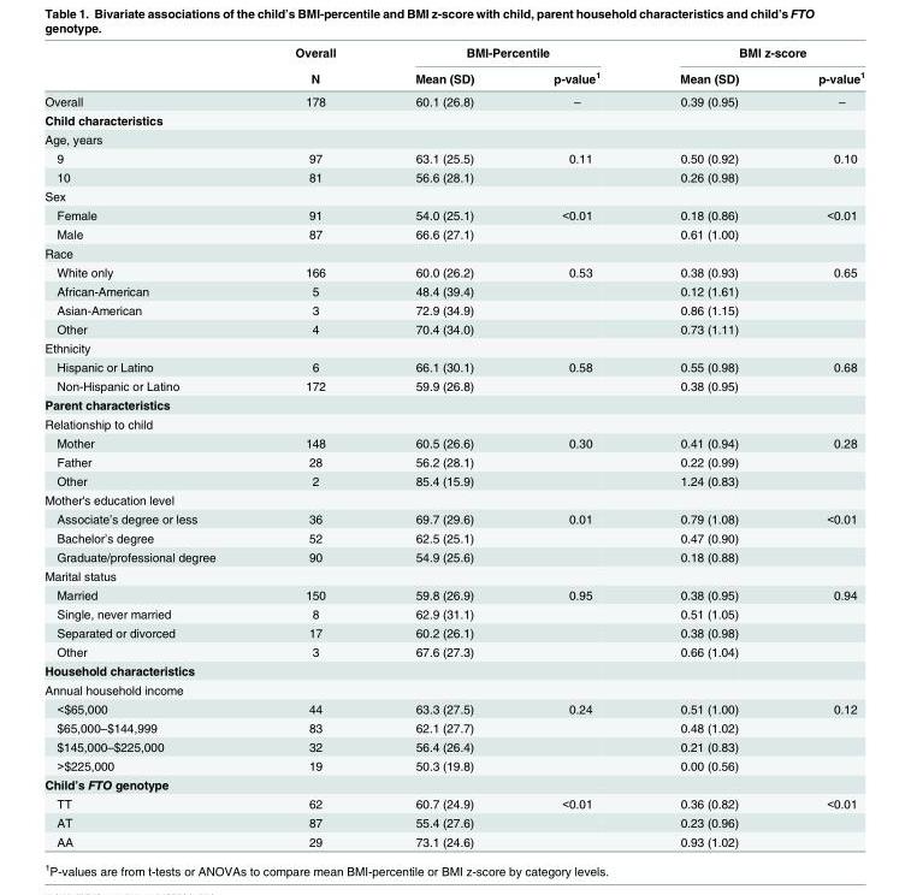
<table><thead><tr><td rowspan="2"></td><td rowspan="2">Overall N</td><td colspan="2">BMI-Percentile</td><td colspan="2">BMI z-score</td></tr><tr><td>Mean (SD)</td><td>p-value<sup>1</sup></td><td>Mean (SD)</td><td>p-value<sup>1</sup></td></tr></thead><tbody><tr><td>Overall</td><td>178</td><td>60.1 (26.8)</td><td>–</td><td>0.39 (0.95)</td><td>–</td></tr><tr><td colspan="6">Child characteristics</td></tr><tr><td colspan="6">Age, years</td></tr><tr><td>9</td><td>97</td><td>63.1 (25.5)</td><td>0.11</td><td>0.50 (0.92)</td><td>0.10</td></tr><tr><td>10</td><td>81</td><td>56.6 (28.1)</td><td></td><td>0.26 (0.98)</td><td></td></tr><tr><td colspan="6">Sex</td></tr><tr><td>Female</td><td>91</td><td>54.0 (25.1)</td><td>&lt;0.01</td><td>0.18 (0.86)</td><td>&lt;0.01</td></tr><tr><td>Male</td><td>87</td><td>66.6 (27.1)</td><td></td><td>0.61 (1.00)</td><td></td></tr><tr><td colspan="6">Race</td></tr><tr><td>White only</td><td>166</td><td>60.0 (26.2)</td><td>0.53</td><td>0.38 (0.93)</td><td>0.65</td></tr><tr><td>African-American</td><td>5</td><td>48.4 (39.4)</td><td></td><td>0.12 (1.61)</td><td></td></tr><tr><td>Asian-American</td><td>3</td><td>72.9 (34.9)</td><td></td><td>0.86 (1.15)</td><td></td></tr><tr><td>Other</td><td>4</td><td>70.4 (34.0)</td><td></td><td>0.73 (1.11)</td><td></td></tr><tr><td colspan="6">Ethnicity</td></tr><tr><td>Hispanic or Latino</td><td>6</td><td>66.1 (30.1)</td><td>0.58</td><td>0.55 (0.98)</td><td>0.68</td></tr><tr><td>Non-Hispanic or Latino</td><td>172</td><td>59.9 (26.8)</td><td></td><td>0.38 (0.95)</td><td></td></tr><tr><td colspan="6">Parent characteristics</td></tr><tr><td colspan="6">Relationship to child</td></tr><tr><td>Mother</td><td>148</td><td>60.5 (26.6)</td><td>0.30</td><td>0.41 (0.94)</td><td>0.28</td></tr><tr><td>Father</td><td>28</td><td>56.2 (28.1)</td><td></td><td>0.22 (0.99)</td><td></td></tr><tr><td>Other</td><td>2</td><td>85.4 (15.9)</td><td></td><td>1.24 (0.83)</td><td></td></tr><tr><td colspan="6">Mother&#x27;s education level</td></tr><tr><td>Associate’s degree or less</td><td>36</td><td>69.7 (29.6)</td><td>0.01</td><td>0.79 (1.08)</td><td>&lt;0.01</td></tr><tr><td>Bachelor’s degree</td><td>52</td><td>62.5 (25.1)</td><td></td><td>0.47 (0.90)</td><td></td></tr><tr><td>Graduate/professional degree</td><td>90</td><td>54.9 (25.6)</td><td></td><td>0.18 (0.88)</td><td></td></tr><tr><td colspan="6">Marital status</td></tr><tr><td>Married</td><td>150</td><td>59.8 (26.9)</td><td>0.95</td><td>0.38 (0.95)</td><td>0.94</td></tr><tr><td>Single, never married</td><td>8</td><td>62.9 (31.1)</td><td></td><td>0.51 (1.05)</td><td></td></tr><tr><td>Separated or divorced</td><td>17</td><td>60.2 (26.1)</td><td></td><td>0.38 (0.98)</td><td></td></tr><tr><td>Other</td><td>3</td><td>67.6 (27.3)</td><td></td><td>0.66 (1.04)</td><td></td></tr><tr><td colspan="6">Household characteristics</td></tr><tr><td colspan="6">Annual household income</td></tr><tr><td>&lt;$65,000</td><td>44</td><td>63.3 (27.5)</td><td>0.24</td><td>0.51 (1.00)</td><td>0.12</td></tr><tr><td>$65,000–$144,999</td><td>83</td><td>62.1 (27.7)</td><td></td><td>0.48 (1.02)</td><td></td></tr><tr><td>$145,000–$225,000</td><td>32</td><td>56.4 (26.4)</td><td></td><td>0.21 (0.83)</td><td></td></tr><tr><td>&gt;$225,000</td><td>19</td><td>50.3 (19.8)</td><td></td><td>0.00 (0.56)</td><td></td></tr><tr><td colspan="6">Child’s FTO genotype</td></tr><tr><td>TT</td><td>62</td><td>60.7 (24.9)</td><td>&lt;0.01</td><td>0.36 (0.82)</td><td>&lt;0.01</td></tr><tr><td>AT</td><td>87</td><td>55.4 (27.6)</td><td></td><td>0.23 (0.96)</td><td></td></tr><tr><td>AA</td><td>29</td><td>73.1 (24.6)</td><td></td><td>0.93 (1.02)</td><td></td></tr></tbody></table>